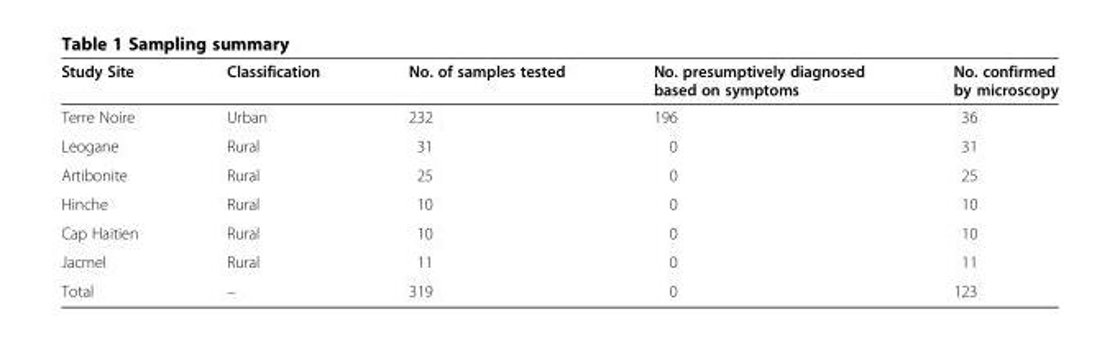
<table><thead><tr><td>Study Site</td><td>Classification</td><td>No. of samples tested</td><td>No. presumptively diagnosed based on symptoms</td><td>No. confirmed by microscopy</td></tr></thead><tbody><tr><td>Terre Noire</td><td>Urban</td><td>232</td><td>196</td><td>36</td></tr><tr><td>Leogane</td><td>Rural</td><td>31</td><td>0</td><td>31</td></tr><tr><td>Artibonite</td><td>Rural</td><td>25</td><td>0</td><td>25</td></tr><tr><td>Hinche</td><td>Rural</td><td>10</td><td>0</td><td>10</td></tr><tr><td>Cap Haitien</td><td>Rural</td><td>10</td><td>0</td><td>10</td></tr><tr><td>Jacmel</td><td>Rural</td><td>11</td><td>0</td><td>11</td></tr><tr><td>Total</td><td>–</td><td>319</td><td>0</td><td>123</td></tr></tbody></table>